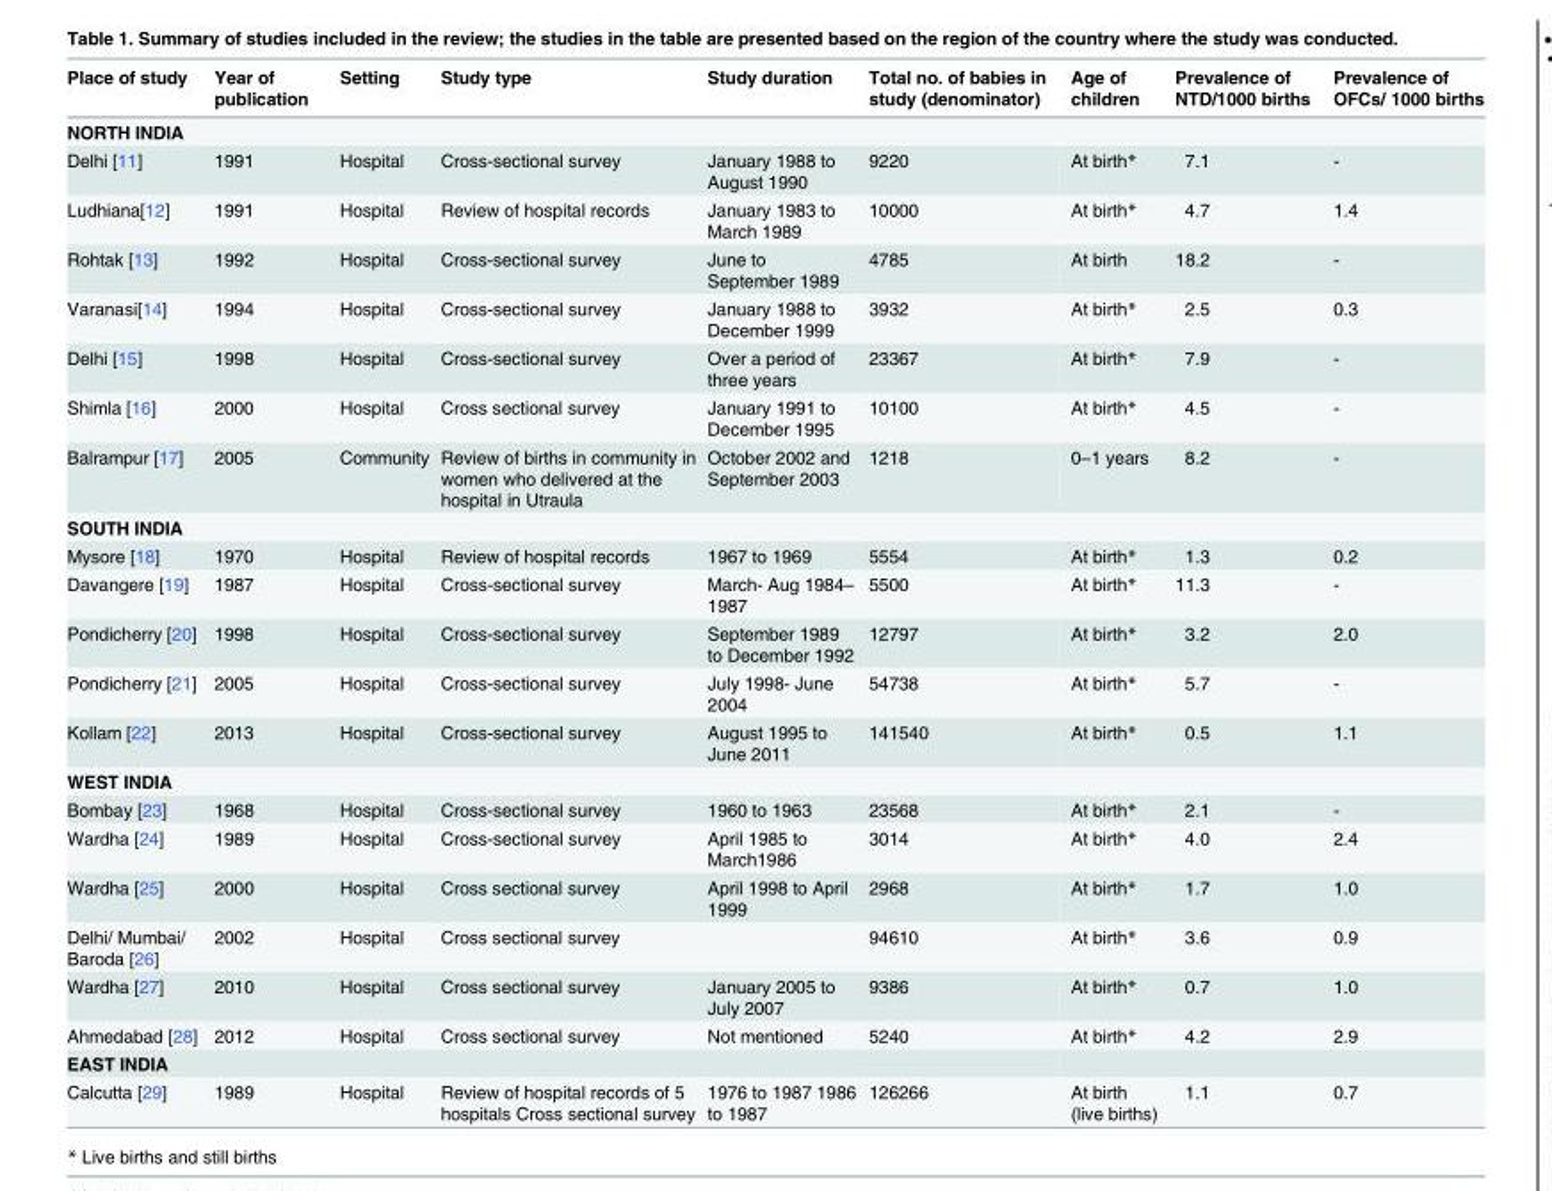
<table><thead><tr><td>Place of study</td><td>Year of publication</td><td>Setting</td><td>Study type</td><td>Study duration</td><td>Total no. of babies in study (denominator)</td><td>Age of children</td><td>Prevalence of NTD/1000 births</td><td>Prevalence of OFCs/ 1000 births</td></tr></thead><tbody><tr><td colspan="9">NORTH INDIA</td></tr><tr><td>Delhi [11]</td><td>1991</td><td>Hospital</td><td>Cross-sectional survey</td><td>January 1988 to August 1990</td><td>9220</td><td>At birth*</td><td>7.1</td><td>-</td></tr><tr><td>Ludhiana[12]</td><td>1991</td><td>Hospital</td><td>Review of hospital records</td><td>January 1983 to March 1989</td><td>10000</td><td>At birth*</td><td>4.7</td><td>1.4</td></tr><tr><td>Rohtak [13]</td><td>1992</td><td>Hospital</td><td>Cross-sectional survey</td><td>June to September 1989</td><td>4785</td><td>At birth</td><td>18.2</td><td>-</td></tr><tr><td>Varanasi[14]</td><td>1994</td><td>Hospital</td><td>Cross-sectional survey</td><td>January 1988 to December 1999</td><td>3932</td><td>At birth*</td><td>2.5</td><td>0.3</td></tr><tr><td>Delhi [15]</td><td>1998</td><td>Hospital</td><td>Cross-sectional survey</td><td>Over a period of three years</td><td>23367</td><td>At birth*</td><td>7.9</td><td>-</td></tr><tr><td>Shimla [16]</td><td>2000</td><td>Hospital</td><td>Cross sectional survey</td><td>January 1991 to December 1995</td><td>10100</td><td>At birth*</td><td>4.5</td><td>-</td></tr><tr><td>Balrampur [17]</td><td>2005</td><td>Community</td><td>Review of births in community in women who delivered at the hospital in Utraula</td><td>October 2002 and September 2003</td><td>1218</td><td>0–1 years</td><td>8.2</td><td>-</td></tr><tr><td colspan="9">SOUTH INDIA</td></tr><tr><td>Mysore [18]</td><td>1970</td><td>Hospital</td><td>Review of hospital records</td><td>1967 to 1969</td><td>5554</td><td>At birth*</td><td>1.3</td><td>0.2</td></tr><tr><td>Davangere [19]</td><td>1987</td><td>Hospital</td><td>Cross-sectional survey</td><td>March- Aug 1984– 1987</td><td>5500</td><td>At birth*</td><td>11.3</td><td>-</td></tr><tr><td>Pondicherry [20]</td><td>1998</td><td>Hospital</td><td>Cross-sectional survey</td><td>September 1989 to December 1992</td><td>12797</td><td>At birth*</td><td>3.2</td><td>2.0</td></tr><tr><td>Pondicherry [21]</td><td>2005</td><td>Hospital</td><td>Cross-sectional survey</td><td>July 1998- June 2004</td><td>54738</td><td>At birth*</td><td>5.7</td><td>-</td></tr><tr><td>Kollam [22]</td><td>2013</td><td>Hospital</td><td>Cross-sectional survey</td><td>August 1995 to June 2011</td><td>141540</td><td>At birth*</td><td>0.5</td><td>1.1</td></tr><tr><td colspan="9">WEST INDIA</td></tr><tr><td>Bombay [23]</td><td>1968</td><td>Hospital</td><td>Cross-sectional survey</td><td>1960 to 1963</td><td>23568</td><td>At birth*</td><td>2.1</td><td>-</td></tr><tr><td>Wardha [24]</td><td>1989</td><td>Hospital</td><td>Cross-sectional survey</td><td>April 1985 to March1986</td><td>3014</td><td>At birth*</td><td>4.0</td><td>2.4</td></tr><tr><td>Wardha [25]</td><td>2000</td><td>Hospital</td><td>Cross sectional survey</td><td>April 1998 to April 1999</td><td>2968</td><td>At birth*</td><td>1.7</td><td>1.0</td></tr><tr><td>Delhi/ Mumbai/ Baroda [26]</td><td>2002</td><td>Hospital</td><td>Cross sectional survey</td><td></td><td>94610</td><td>At birth*</td><td>3.6</td><td>0.9</td></tr><tr><td>Wardha [27]</td><td>2010</td><td>Hospital</td><td>Cross sectional survey</td><td>January 2005 to July 2007</td><td>9386</td><td>At birth*</td><td>0.7</td><td>1.0</td></tr><tr><td>Ahmedabad [28]</td><td>2012</td><td>Hospital</td><td>Cross sectional survey</td><td>Not mentioned</td><td>5240</td><td>At birth*</td><td>4.2</td><td>2.9</td></tr><tr><td colspan="9">EAST INDIA</td></tr><tr><td>Calcutta [29]</td><td>1989</td><td>Hospital</td><td>Review of hospital records of 5 hospitals Cross sectional survey</td><td>1976 to 1987 1986 to 1987</td><td>126266</td><td>At birth (live births)</td><td>1.1</td><td>0.7</td></tr></tbody></table>